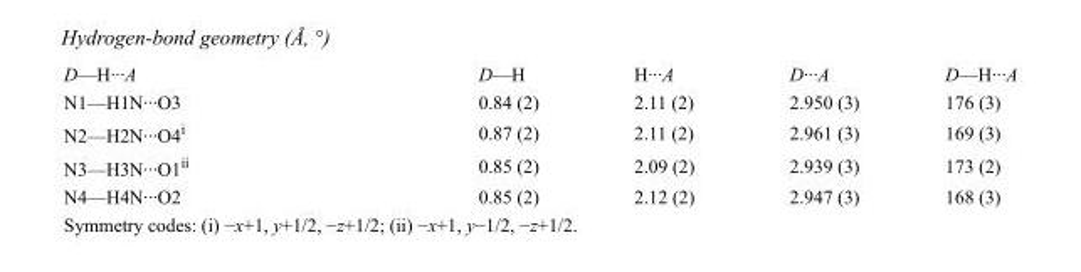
<table><tbody><tr><td>D—H···A</td><td>D—H</td><td>H···A</td><td>D···A</td><td>D—H···A</td></tr><tr><td>N1—H1N···O3</td><td>0.84 (2)</td><td>2.11 (2)</td><td>2.950 (3)</td><td>176 (3)</td></tr><tr><td>N2—H2N···O4<sup>i</sup></td><td>0.87 (2)</td><td>2.11 (2)</td><td>2.961 (3)</td><td>169 (3)</td></tr><tr><td>N3—H3N···O1<sup>ii</sup></td><td>0.85 (2)</td><td>2.09 (2)</td><td>2.939 (3)</td><td>173 (2)</td></tr><tr><td>N4—H4N···O2</td><td>0.85 (2)</td><td>2.12 (2)</td><td>2.947 (3)</td><td>168 (3)</td></tr></tbody></table>